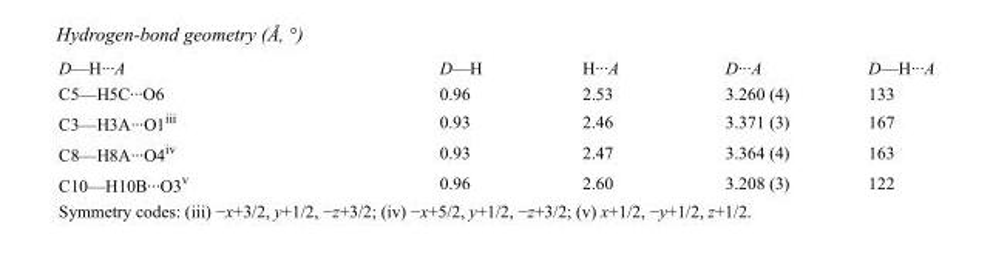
<table><tbody><tr><td>D—H···A</td><td>D—H</td><td>H···A</td><td>D···A</td><td>D—H···A</td></tr><tr><td>C5—H5C···O6</td><td>0.96</td><td>2.53</td><td>3.260 (4)</td><td>133</td></tr><tr><td>C3—H3A···O1<sup>iii</sup></td><td>0.93</td><td>2.46</td><td>3.371 (3)</td><td>167</td></tr><tr><td>C8—H8A···O4<sup>iv</sup></td><td>0.93</td><td>2.47</td><td>3.364 (4)</td><td>163</td></tr><tr><td>C10—H10B···O3<sup>v</sup></td><td>0.96</td><td>2.60</td><td>3.208 (3)</td><td>122</td></tr></tbody></table>